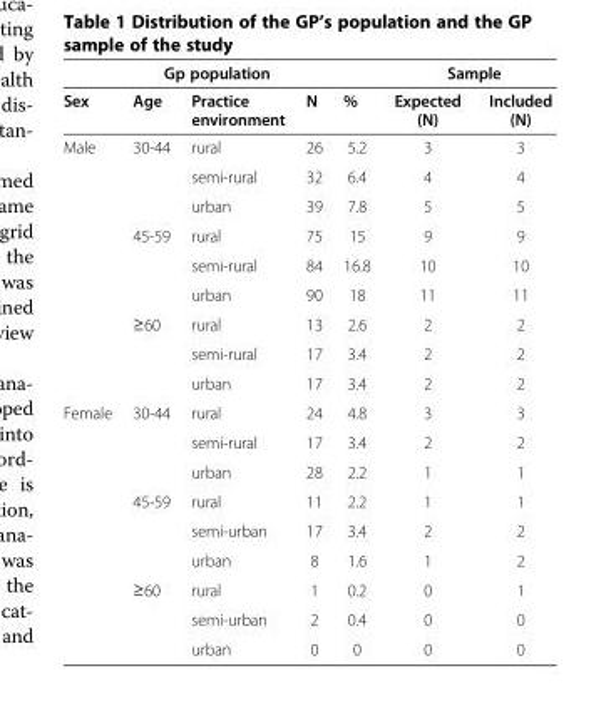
<table><thead><tr><td colspan="5">Gp population</td><td colspan="2">Sample</td></tr><tr><td>Sex</td><td>Age</td><td>Practice environment</td><td>N</td><td>%</td><td>Expected (N)</td><td>Included (N)</td></tr></thead><tbody><tr><td rowspan="9">Male</td><td>30-44</td><td>rural</td><td>26</td><td>5.2</td><td>3</td><td>3</td></tr><tr><td></td><td>semi-rural</td><td>32</td><td>6.4</td><td>4</td><td>4</td></tr><tr><td></td><td>urban</td><td>39</td><td>7.8</td><td>5</td><td>5</td></tr><tr><td>45-59</td><td>rural</td><td>75</td><td>15</td><td>9</td><td>9</td></tr><tr><td></td><td>semi-rural</td><td>84</td><td>16.8</td><td>10</td><td>10</td></tr><tr><td></td><td>urban</td><td>90</td><td>18</td><td>11</td><td>11</td></tr><tr><td>≥60</td><td>rural</td><td>13</td><td>2.6</td><td>2</td><td>2</td></tr><tr><td></td><td>semi-rural</td><td>17</td><td>3.4</td><td>2</td><td>2</td></tr><tr><td></td><td>urban</td><td>17</td><td>3.4</td><td>2</td><td>2</td></tr><tr><td rowspan="9">Female</td><td>30-44</td><td>rural</td><td>24</td><td>4.8</td><td>3</td><td>3</td></tr><tr><td></td><td>semi-rural</td><td>17</td><td>3.4</td><td>2</td><td>2</td></tr><tr><td></td><td>urban</td><td>28</td><td>2.2</td><td>1</td><td>1</td></tr><tr><td>45-59</td><td>rural</td><td>11</td><td>2.2</td><td>1</td><td>1</td></tr><tr><td></td><td>semi-urban</td><td>17</td><td>3.4</td><td>2</td><td>2</td></tr><tr><td></td><td>urban</td><td>8</td><td>1.6</td><td>1</td><td>2</td></tr><tr><td>≥60</td><td>rural</td><td>1</td><td>0.2</td><td>0</td><td>1</td></tr><tr><td></td><td>semi-urban</td><td>2</td><td>0.4</td><td>0</td><td>0</td></tr><tr><td></td><td>urban</td><td>0</td><td>0</td><td>0</td><td>0</td></tr></tbody></table>